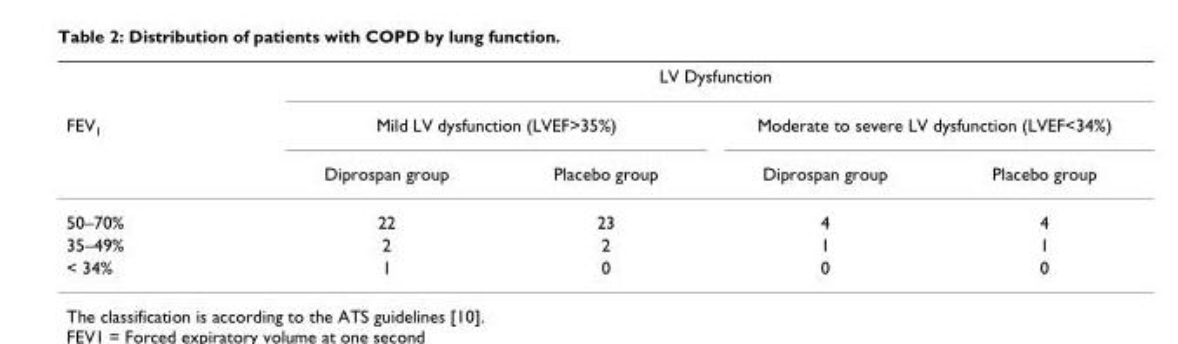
<table><thead><tr><td rowspan="3">FEV<sub>1</sub></td><td colspan="4">LV Dysfunction</td></tr><tr><td colspan="2">Mild LV dysfunction (LVEF&gt;35%)</td><td colspan="2">Moderate to severe LV dysfunction (LVEF&lt;34%)</td></tr><tr><td>Diprospan group</td><td>Placebo group</td><td>Diprospan group</td><td>Placebo group</td></tr></thead><tbody><tr><td>50–70%</td><td>22</td><td>23</td><td>4</td><td>4</td></tr><tr><td>35–49%</td><td>2</td><td>2</td><td>1</td><td>1</td></tr><tr><td>&lt; 34%</td><td>1</td><td>0</td><td>0</td><td>0</td></tr></tbody></table>